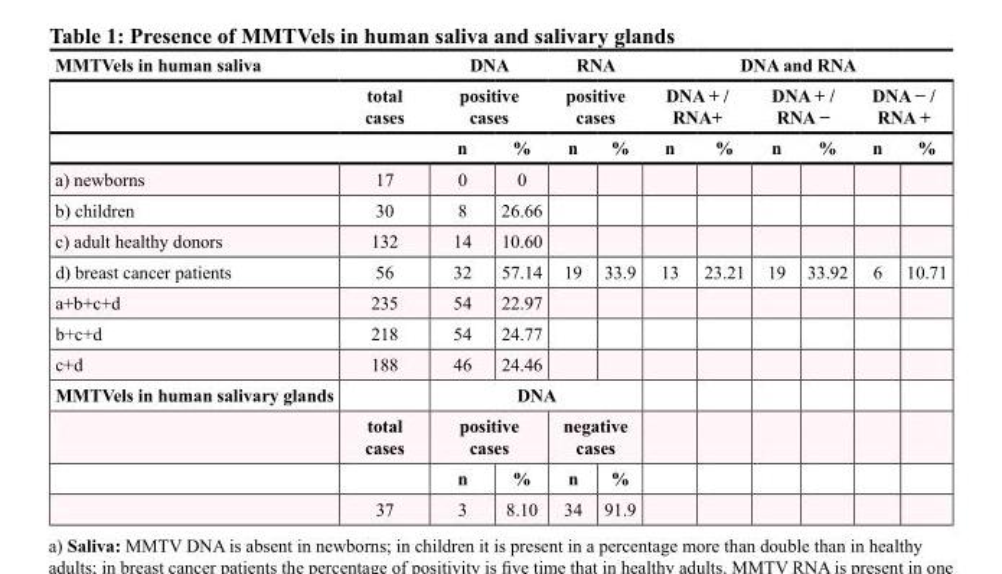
<table><thead><tr><td rowspan="3">MMTVels in human saliva</td><td rowspan="3">total cases</td><td rowspan="2" colspan="2">DNA positive cases</td><td rowspan="2" colspan="2">RNA positive cases</td><td colspan="6">DNA and RNA</td></tr><tr><td colspan="2">DNA + / RNA+</td><td colspan="2">DNA + / RNA −</td><td colspan="2">DNA − / RNA +</td></tr><tr><td>n</td><td>%</td><td>n</td><td>%</td><td>n</td><td>%</td><td>n</td><td>%</td><td>n</td><td>%</td></tr></thead><tbody><tr><td>a) newborns</td><td>17</td><td>0</td><td>0</td><td></td><td></td><td></td><td></td><td></td><td></td><td></td><td></td></tr><tr><td>b) children</td><td>30</td><td>8</td><td>26.66</td><td></td><td></td><td></td><td></td><td></td><td></td><td></td><td></td></tr><tr><td>c) adult healthy donors</td><td>132</td><td>14</td><td>10.60</td><td></td><td></td><td></td><td></td><td></td><td></td><td></td><td></td></tr><tr><td>d) breast cancer patients</td><td>56</td><td>32</td><td>57.14</td><td>19</td><td>33.9</td><td>13</td><td>23.21</td><td>19</td><td>33.92</td><td>6</td><td>10.71</td></tr><tr><td>a+b+c+d</td><td>235</td><td>54</td><td>22.97</td><td></td><td></td><td></td><td></td><td></td><td></td><td></td><td></td></tr><tr><td>b+c+d</td><td>218</td><td>54</td><td>24.77</td><td></td><td></td><td></td><td></td><td></td><td></td><td></td><td></td></tr><tr><td>c+d</td><td>188</td><td>46</td><td>24.46</td><td></td><td></td><td></td><td></td><td></td><td></td><td></td><td></td></tr><tr><td rowspan="4">MMTVels in human salivary glands</td><td></td><td colspan="4">DNA</td><td></td><td></td><td></td><td></td><td></td><td></td></tr><tr><td>total cases</td><td colspan="2">positive cases</td><td colspan="2">negative cases</td><td></td><td></td><td></td><td></td><td></td><td></td></tr><tr><td></td><td>n</td><td>%</td><td>n</td><td>%</td><td></td><td></td><td></td><td></td><td></td><td></td></tr><tr><td>37</td><td>3</td><td>8.10</td><td>34</td><td>91.9</td><td></td><td></td><td></td><td></td><td></td><td></td></tr></tbody></table>